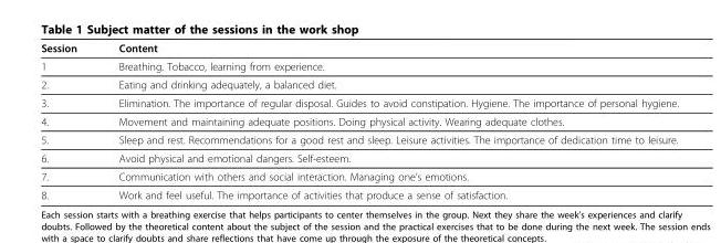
<table><thead><tr><td>Session</td><td>Content</td></tr></thead><tbody><tr><td>1</td><td>Breathing. Tobacco, learning from experience.</td></tr><tr><td>2.</td><td>Eating and drinking adequately, a balanced diet.</td></tr><tr><td>3.</td><td>Elimination. The importance of regular disposal. Guides to avoid constipation. Hygiene. The importance of personal hygiene.</td></tr><tr><td>4.</td><td>Movement and maintaining adequate positions. Doing physical activity. Wearing adequate clothes.</td></tr><tr><td>5.</td><td>Sleep and rest. Recommendations for a good rest and sleep. Leisure activities. The importance of dedication time to leisure.</td></tr><tr><td>6.</td><td>Avoid physical and emotional dangers. Self-esteem.</td></tr><tr><td>7.</td><td>Communication with others and social interaction. Managing one’s emotions.</td></tr><tr><td>8.</td><td>Work and feel useful. The importance of activities that produce a sense of satisfaction.</td></tr></tbody></table>